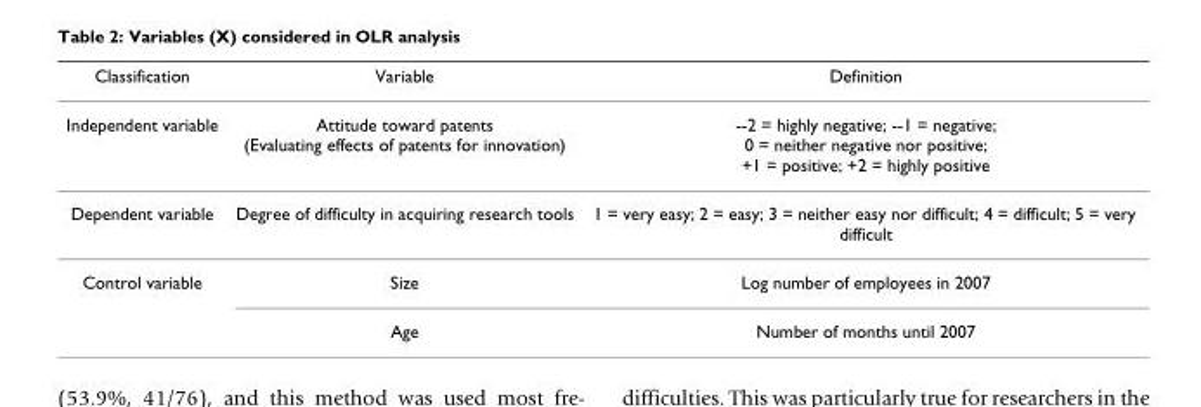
<table><thead><tr><td>Classification</td><td>Variable</td><td>Definition</td></tr></thead><tbody><tr><td>Independent variable</td><td>Attitude toward patents (Evaluating effects of patents for innovation)</td><td>--2 = highly negative; --1 = negative; 0 = neither negative nor positive; +1 = positive; +2 = highly positive</td></tr><tr><td>Dependent variable</td><td>Degree of difficulty in acquiring research tools</td><td>1 = very easy; 2 = easy; 3 = neither easy nor difficult; 4 = difficult; 5 = very difficult</td></tr><tr><td rowspan="2">Control variable</td><td>Size</td><td>Log number of employees in 2007</td></tr><tr><td>Age</td><td>Number of months until 2007</td></tr></tbody></table>